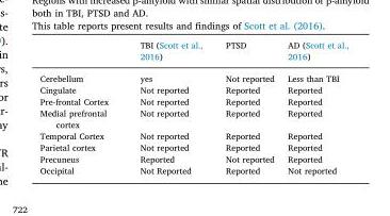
<table><thead><tr><td></td><td>TBI (Scott et al., 2016)</td><td>PTSD</td><td>AD (Scott et al., 2016)</td></tr></thead><tbody><tr><td>Cerebellum</td><td>yes</td><td>Not reported</td><td>Less than TBI</td></tr><tr><td>Cingulate</td><td>Not reported</td><td>Reported</td><td>Reported</td></tr><tr><td>Pre-frontal Cortex</td><td>Not reported</td><td>Reported</td><td>Reported</td></tr><tr><td>Medial prefrontal cortex</td><td>Not reported</td><td>Reported</td><td>Reported</td></tr><tr><td>Temporal Cortex</td><td>Not reported</td><td>Reported</td><td>Reported</td></tr><tr><td>Parietal cortex</td><td>Not reported</td><td>Reported</td><td>Reported</td></tr><tr><td>Precuneus</td><td>Reported</td><td>Not reported</td><td>Reported</td></tr><tr><td>Occipital</td><td>Not Reported</td><td>Reported</td><td>Not reported</td></tr></tbody></table>